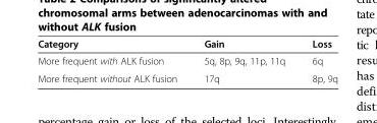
<table><thead><tr><td>Category</td><td>Gain</td><td>Loss</td></tr></thead><tbody><tr><td>More frequent with ALK fusion</td><td>5q, 8p, 9q, 11p, 11q</td><td>6q</td></tr><tr><td>More frequent without ALK fusion</td><td>17q</td><td>8p, 9q</td></tr></tbody></table>